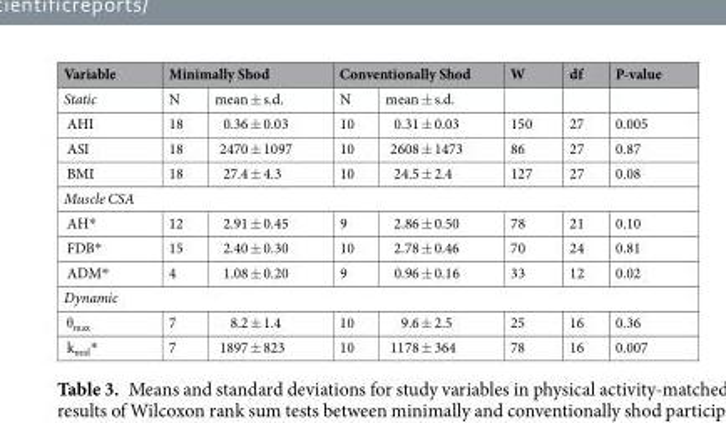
<table><thead><tr><td rowspan="2">Variable Static</td><td colspan="2">Minimally Shod</td><td colspan="2">Conventionally Shod</td><td rowspan="2">W</td><td rowspan="2">df</td><td rowspan="2">P-value</td></tr><tr><td>N</td><td>mean ± s.d.</td><td>N</td><td>mean ± s.d.</td></tr></thead><tbody><tr><td>AHI</td><td>18</td><td>0.36 ± 0.03</td><td>10</td><td>0.31 ± 0.03</td><td>150</td><td>27</td><td>0.005</td></tr><tr><td>ASI</td><td>18</td><td>2470 ± 1097</td><td>10</td><td>2608 ± 1473</td><td>86</td><td>27</td><td>0.87</td></tr><tr><td>BMI</td><td>18</td><td>27.4 ± 4.3</td><td>10</td><td>24.5 ± 2.4</td><td>127</td><td>27</td><td>0.08</td></tr><tr><td colspan="8">Muscle CSA</td></tr><tr><td>AH*</td><td>12</td><td>2.91 ± 0.45</td><td>9</td><td>2.86 ± 0.50</td><td>78</td><td>21</td><td>0.10</td></tr><tr><td>FDB*</td><td>15</td><td>2.40 ± 0.30</td><td>10</td><td>2.78 ± 0.46</td><td>70</td><td>24</td><td>0.81</td></tr><tr><td>ADM*</td><td>4</td><td>1.08 ± 0.20</td><td>9</td><td>0.96 ± 0.16</td><td>33</td><td>12</td><td>0.02</td></tr><tr><td colspan="8">Dynamic</td></tr><tr><td>θ<sub>max</sub></td><td>7</td><td>8.2 ± 1.4</td><td>10</td><td>9.6 ± 2.5</td><td>25</td><td>16</td><td>0.36</td></tr><tr><td>k<sub>mid</sub>*</td><td>7</td><td>1897 ± 823</td><td>10</td><td>1178 ± 364</td><td>78</td><td>16</td><td>0.007</td></tr></tbody></table>